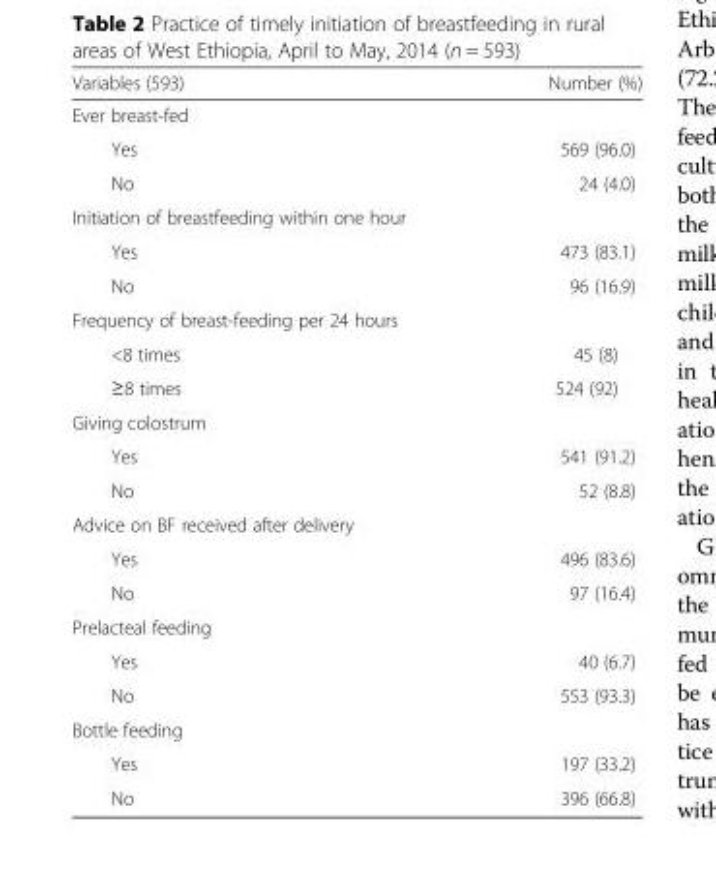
<table><thead><tr><td>Variables (593)</td><td>Number (%)</td></tr></thead><tbody><tr><td colspan="2">Ever breast-fed</td></tr><tr><td>Yes</td><td>569 (96.0)</td></tr><tr><td>No</td><td>24 (4.0)</td></tr><tr><td colspan="2">Initiation of breastfeeding within one hour</td></tr><tr><td>Yes</td><td>473 (83.1)</td></tr><tr><td>No</td><td>96 (16.9)</td></tr><tr><td colspan="2">Frequency of breast-feeding per 24 hours</td></tr><tr><td>&lt;8 times</td><td>45 (8)</td></tr><tr><td>≥8 times</td><td>524 (92)</td></tr><tr><td colspan="2">Giving colostrum</td></tr><tr><td>Yes</td><td>541 (91.2)</td></tr><tr><td>No</td><td>52 (8.8)</td></tr><tr><td colspan="2">Advice on BF received after delivery</td></tr><tr><td>Yes</td><td>496 (83.6)</td></tr><tr><td>No</td><td>97 (16.4)</td></tr><tr><td colspan="2">Prelacteal feeding</td></tr><tr><td>Yes</td><td>40 (6.7)</td></tr><tr><td>No</td><td>553 (93.3)</td></tr><tr><td colspan="2">Bottle feeding</td></tr><tr><td>Yes</td><td>197 (33.2)</td></tr><tr><td>No</td><td>396 (66.8)</td></tr></tbody></table>